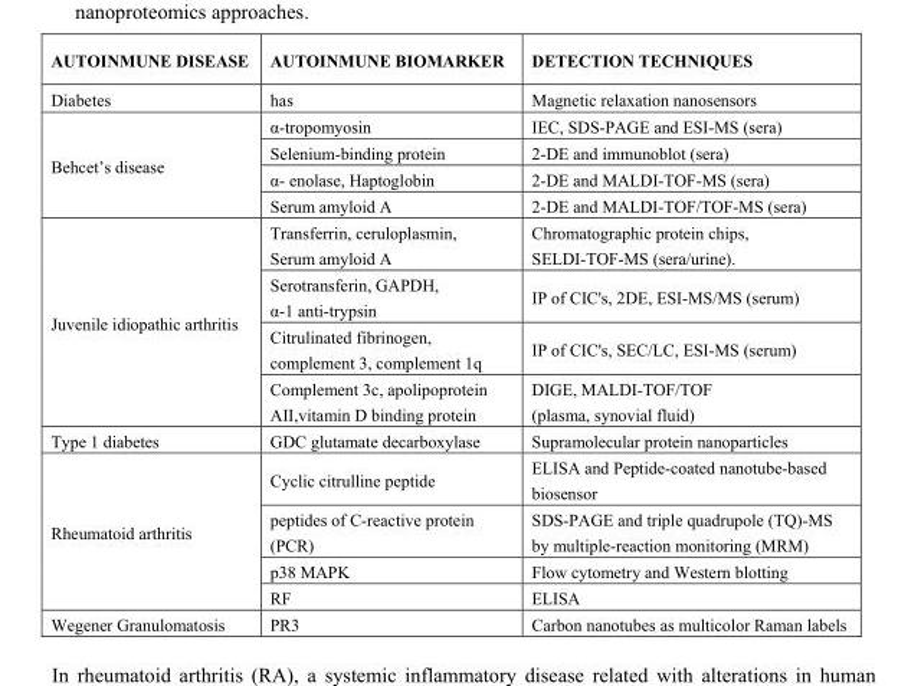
<table><thead><tr><td>AUTOINMUNE DISEASE</td><td>AUTOINMUNE BIOMARKER</td><td>DETECTION TECHNIQUES</td></tr></thead><tbody><tr><td>Diabetes</td><td>has</td><td>Magnetic relaxation nanosensors</td></tr><tr><td rowspan="4">Behcet’s disease</td><td>α-tropomyosin</td><td>IEC, SDS-PAGE and ESI-MS (sera)</td></tr><tr><td>Selenium-binding protein</td><td>2-DE and immunoblot (sera)</td></tr><tr><td>α- enolase, Haptoglobin</td><td>2-DE and MALDI-TOF-MS (sera)</td></tr><tr><td>Serum amyloid A</td><td>2-DE and MALDI-TOF/TOF-MS (sera)</td></tr><tr><td rowspan="4">Juvenile idiopathic arthritis</td><td>Transferrin, ceruloplasmin, Serum amyloid A</td><td>Chromatographic protein chips, SELDI-TOF-MS (sera/urine).</td></tr><tr><td>Serotransferin, GAPDH, α-1 anti-trypsin</td><td>IP of CIC&#x27;s, 2DE, ESI-MS/MS (serum)</td></tr><tr><td>Citrulinated fibrinogen, complement 3, complement 1q</td><td>IP of CIC&#x27;s, SEC/LC, ESI-MS (serum)</td></tr><tr><td>Complement 3c, apolipoprotein AII,vitamin D binding protein</td><td>DIGE, MALDI-TOF/TOF (plasma, synovial fluid)</td></tr><tr><td>Type 1 diabetes</td><td>GDC glutamate decarboxylase</td><td>Supramolecular protein nanoparticles</td></tr><tr><td rowspan="4">Rheumatoid arthritis</td><td>Cyclic citrulline peptide</td><td>ELISA and Peptide-coated nanotube-based biosensor</td></tr><tr><td>peptides of C-reactive protein (PCR)</td><td>SDS-PAGE and triple quadrupole (TQ)-MS by multiple-reaction monitoring (MRM)</td></tr><tr><td>p38 MAPK</td><td>Flow cytometry and Western blotting</td></tr><tr><td>RF</td><td>ELISA</td></tr><tr><td>Wegener Granulomatosis</td><td>PR3</td><td>Carbon nanotubes as multicolor Raman labels</td></tr></tbody></table>